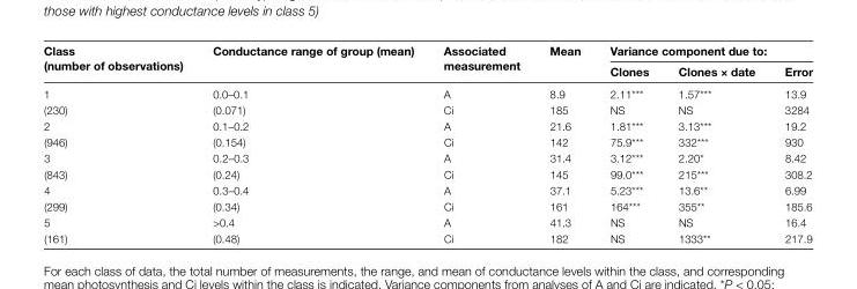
<table><thead><tr><td rowspan="2">Class (number of observations)</td><td rowspan="2">Conductance range of group (mean)</td><td rowspan="2">Associated measurement</td><td rowspan="2">Mean</td><td colspan="3">Variance component due to:</td></tr><tr><td>Clones</td><td>Clones × date</td><td>Error</td></tr></thead><tbody><tr><td>1</td><td>0.0–0.1</td><td>A</td><td>8.9</td><td>2.11***</td><td>1.57***</td><td>13.9</td></tr><tr><td>(230)</td><td>(0.071)</td><td>Ci</td><td>185</td><td>NS</td><td>NS</td><td>3284</td></tr><tr><td>2</td><td>0.1–0.2</td><td>A</td><td>21.6</td><td>1.81***</td><td>3.13***</td><td>19.2</td></tr><tr><td>(946)</td><td>(0.154)</td><td>Ci</td><td>142</td><td>75.9***</td><td>332***</td><td>930</td></tr><tr><td>3</td><td>0.2–0.3</td><td>A</td><td>31.4</td><td>3.12***</td><td>2.20*</td><td>8.42</td></tr><tr><td>(843)</td><td>(0.24)</td><td>Ci</td><td>145</td><td>99.0***</td><td>215***</td><td>308.2</td></tr><tr><td>4</td><td>0.3–0.4</td><td>A</td><td>37.1</td><td>5.23***</td><td>13.6**</td><td>6.99</td></tr><tr><td>(299)</td><td>(0.34)</td><td>Ci</td><td>161</td><td>164***</td><td>355**</td><td>185.6</td></tr><tr><td>5</td><td>&gt;0.4</td><td>A</td><td>41.3</td><td>NS</td><td>NS</td><td>16.4</td></tr><tr><td>(161)</td><td>(0.48)</td><td>Ci</td><td>182</td><td>NS</td><td>1333**</td><td>217.9</td></tr></tbody></table>